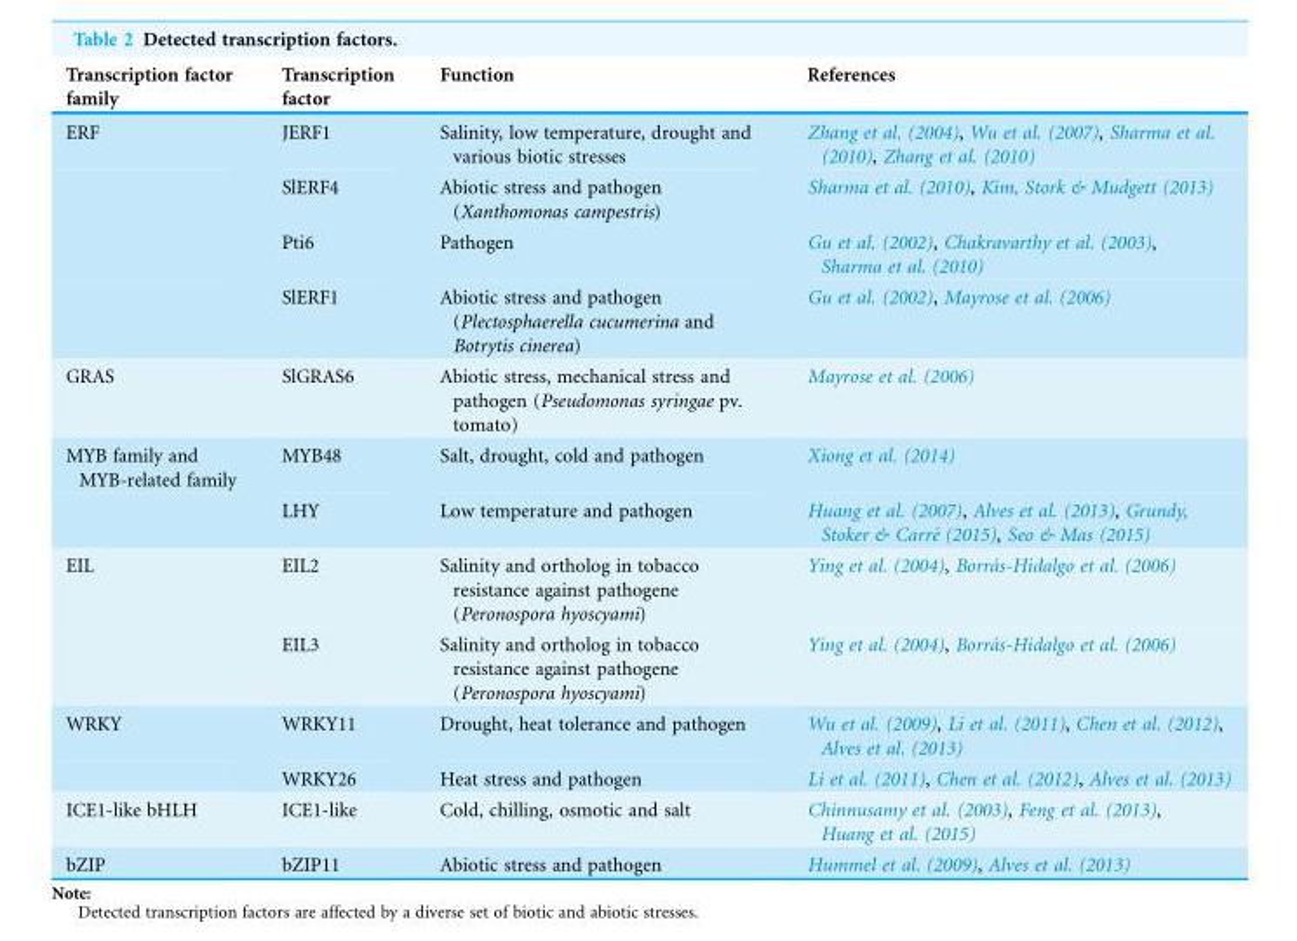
<table><thead><tr><td>Transcription factor family</td><td>Transcription factor</td><td>Function</td><td>References</td></tr></thead><tbody><tr><td rowspan="4">ERF</td><td>JERF1</td><td>Salinity, low temperature, drought and various biotic stresses</td><td>Zhang et al. (2004), Wu et al. (2007), Sharma et al. (2010), Zhang et al. (2010)</td></tr><tr><td>SlERF4</td><td>Abiotic stress and pathogen (Xanthomonas campestris)</td><td>Sharma et al. (2010), Kim, Stork &amp; Mudgett (2013)</td></tr><tr><td>Pti6</td><td>Pathogen</td><td>Gu et al. (2002), Chakravarthy et al. (2003), Sharma et al. (2010)</td></tr><tr><td>SlERF1</td><td>Abiotic stress and pathogen (Plectosphaerella cucumerina and Botrytis cinerea)</td><td>Gu et al. (2002), Mayrose et al. (2006)</td></tr><tr><td>GRAS</td><td>SlGRAS6</td><td>Abiotic stress, mechanical stress and pathogen (Pseudomonas syringae pv. tomato)</td><td>Mayrose et al. (2006)</td></tr><tr><td rowspan="2">MYB family and MYB-related family</td><td>MYB48</td><td>Salt, drought, cold and pathogen</td><td>Xiong et al. (2014)</td></tr><tr><td>LHY</td><td>Low temperature and pathogen</td><td>Huang et al. (2007), Alves et al. (2013), Grundy, Stoker &amp; Carre´ (2015), Seo &amp; Mas (2015)</td></tr><tr><td rowspan="2">EIL</td><td>EIL2</td><td>Salinity and ortholog in tobacco resistance against pathogene (Peronospora hyoscyami)</td><td>Ying et al. (2004), Borra´s-Hidalgo et al. (2006)</td></tr><tr><td>EIL3</td><td>Salinity and ortholog in tobacco resistance against pathogene (Peronospora hyoscyami)</td><td>Ying et al. (2004), Borra´s-Hidalgo et al. (2006)</td></tr><tr><td rowspan="2">WRKY</td><td>WRKY11</td><td>Drought, heat tolerance and pathogen</td><td>Wu et al. (2009), Li et al. (2011), Chen et al. (2012), Alves et al. (2013)</td></tr><tr><td>WRKY26</td><td>Heat stress and pathogen</td><td>Li et al. (2011), Chen et al. (2012), Alves et al. (2013)</td></tr><tr><td>ICE1-like bHLH</td><td>ICE1-like</td><td>Cold, chilling, osmotic and salt</td><td>Chinnusamy et al. (2003), Feng et al. (2013), Huang et al. (2015)</td></tr><tr><td>bZIP</td><td>bZIP11</td><td>Abiotic stress and pathogen</td><td>Hummel et al. (2009), Alves et al. (2013)</td></tr></tbody></table>